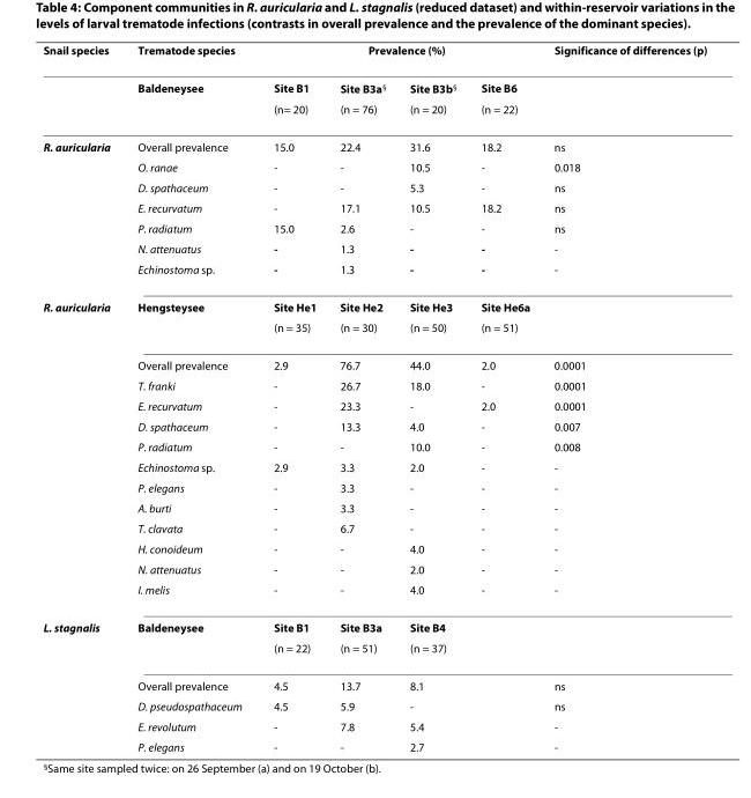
<table><thead><tr><td rowspan="2">Snail species</td><td rowspan="2">Trematode species Baldeneysee</td><td colspan="4">Prevalence (%)</td><td rowspan="2">Significance of differences (p)</td></tr><tr><td>Site B1</td><td>Site B3a<sup>§</sup></td><td>Site B3b<sup>§</sup></td><td>Site B6</td></tr></thead><tbody><tr><td></td><td></td><td>(n= 20)</td><td>(n = 76)</td><td>(n = 20)</td><td>(n = 22)</td><td></td></tr><tr><td rowspan="7">R. auricularia</td><td>Overall prevalence</td><td>15.0</td><td>22.4</td><td>31.6</td><td>18.2</td><td>ns</td></tr><tr><td>O. ranae</td><td>-</td><td>-</td><td>10.5</td><td>-</td><td>0.018</td></tr><tr><td>D. spathaceum</td><td>-</td><td>-</td><td>5.3</td><td>-</td><td>ns</td></tr><tr><td>E. recurvatum</td><td>-</td><td>17.1</td><td>10.5</td><td>18.2</td><td>ns</td></tr><tr><td>P. radiatum</td><td>15.0</td><td>2.6</td><td>-</td><td>-</td><td>ns</td></tr><tr><td>N. attenuatus</td><td>-</td><td>1.3</td><td>-</td><td>-</td><td>-</td></tr><tr><td>Echinostoma sp.</td><td>-</td><td>1.3</td><td>-</td><td>-</td><td>-</td></tr><tr><td rowspan="14">R. auricularia</td><td>Hengsteysee</td><td>Site He1</td><td>Site He2</td><td>Site He3</td><td>Site He6a</td><td></td></tr><tr><td></td><td>(n = 35)</td><td>(n = 30)</td><td>(n = 50)</td><td>(n = 51)</td><td></td></tr><tr><td>Overall prevalence</td><td>2.9</td><td>76.7</td><td>44.0</td><td>2.0</td><td>0.0001</td></tr><tr><td>T. franki</td><td>-</td><td>26.7</td><td>18.0</td><td>-</td><td>0.0001</td></tr><tr><td>E. recurvatum</td><td>-</td><td>23.3</td><td>-</td><td>2.0</td><td>0.0001</td></tr><tr><td>D. spathaceum</td><td>-</td><td>13.3</td><td>4.0</td><td>-</td><td>0.007</td></tr><tr><td>P. radiatum</td><td>-</td><td>-</td><td>10.0</td><td>-</td><td>0.008</td></tr><tr><td>Echinostoma sp.</td><td>2.9</td><td>3.3</td><td>2.0</td><td>-</td><td>-</td></tr><tr><td>P. elegans</td><td>-</td><td>3.3</td><td>-</td><td>-</td><td>-</td></tr><tr><td>A. burti</td><td>-</td><td>3.3</td><td>-</td><td>-</td><td>-</td></tr><tr><td>T. clavata</td><td>-</td><td>6.7</td><td>-</td><td>-</td><td>-</td></tr><tr><td>H. conoideum</td><td>-</td><td>-</td><td>4.0</td><td>-</td><td>-</td></tr><tr><td>N. attenuatus</td><td>-</td><td>-</td><td>2.0</td><td>-</td><td>-</td></tr><tr><td>I. melis</td><td>-</td><td>-</td><td>4.0</td><td>-</td><td>-</td></tr><tr><td rowspan="6">L. stagnalis</td><td>Baldeneysee</td><td>Site B1</td><td>Site B3a</td><td>Site B4</td><td></td><td></td></tr><tr><td></td><td>(n = 22)</td><td>(n = 51)</td><td>(n = 37)</td><td></td><td></td></tr><tr><td>Overall prevalence</td><td>4.5</td><td>13.7</td><td>8.1</td><td></td><td>ns</td></tr><tr><td>D. pseudospathaceum</td><td>4.5</td><td>5.9</td><td>-</td><td></td><td>ns</td></tr><tr><td>E. revolutum</td><td>-</td><td>7.8</td><td>5.4</td><td></td><td>-</td></tr><tr><td>P. elegans</td><td>-</td><td>-</td><td>2.7</td><td></td><td>-</td></tr></tbody></table>